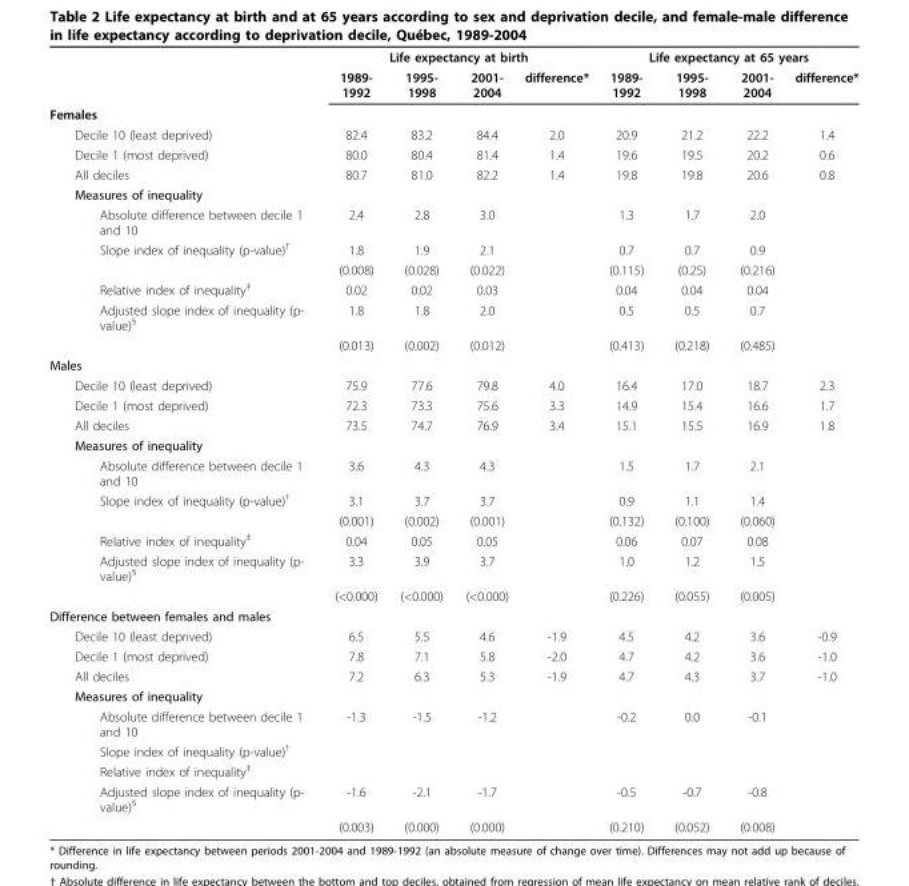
<table><thead><tr><td rowspan="2"></td><td colspan="4">Life expectancy at birth</td><td colspan="4">Life expectancy at 65 years</td></tr><tr><td>1989- 1992</td><td>1995- 1998</td><td>2001- 2004</td><td>difference*</td><td>1989- 1992</td><td>1995- 1998</td><td>2001- 2004</td><td>difference*</td></tr></thead><tbody><tr><td colspan="9">Females</td></tr><tr><td>Decile 10 (least deprived)</td><td>82.4</td><td>83.2</td><td>84.4</td><td>2.0</td><td>20.9</td><td>21.2</td><td>22.2</td><td>1.4</td></tr><tr><td>Decile 1 (most deprived)</td><td>80.0</td><td>80.4</td><td>81.4</td><td>1.4</td><td>19.6</td><td>19.5</td><td>20.2</td><td>0.6</td></tr><tr><td>All deciles</td><td>80.7</td><td>81.0</td><td>82.2</td><td>1.4</td><td>19.8</td><td>19.8</td><td>20.6</td><td>0.8</td></tr><tr><td colspan="9">Measures of inequality</td></tr><tr><td>Absolute difference between decile 1 and 10</td><td>2.4</td><td>2.8</td><td>3.0</td><td></td><td>1.3</td><td>1.7</td><td>2.0</td><td></td></tr><tr><td rowspan="2">Slope index of inequality (p-value)<sup>†</sup></td><td>1.8</td><td>1.9</td><td>2.1</td><td></td><td>0.7</td><td>0.7</td><td>0.9</td><td></td></tr><tr><td>(0.008)</td><td>(0.028)</td><td>(0.022)</td><td></td><td>(0.115)</td><td>(0.25)</td><td>(0.216)</td><td></td></tr><tr><td>Relative index of inequality<sup>‡</sup></td><td>0.02</td><td>0.02</td><td>0.03</td><td></td><td>0.04</td><td>0.04</td><td>0.04</td><td></td></tr><tr><td rowspan="2">Adjusted slope index of inequality (p- value)<sup>§</sup></td><td>1.8</td><td>1.8</td><td>2.0</td><td></td><td>0.5</td><td>0.5</td><td>0.7</td><td></td></tr><tr><td>(0.013)</td><td>(0.002)</td><td>(0.012)</td><td></td><td>(0.413)</td><td>(0.218)</td><td>(0.485)</td><td></td></tr><tr><td colspan="9">Males</td></tr><tr><td>Decile 10 (least deprived)</td><td>75.9</td><td>77.6</td><td>79.8</td><td>4.0</td><td>16.4</td><td>17.0</td><td>18.7</td><td>2.3</td></tr><tr><td>Decile 1 (most deprived)</td><td>72.3</td><td>73.3</td><td>75.6</td><td>3.3</td><td>14.9</td><td>15.4</td><td>16.6</td><td>1.7</td></tr><tr><td>All deciles</td><td>73.5</td><td>74.7</td><td>76.9</td><td>3.4</td><td>15.1</td><td>15.5</td><td>16.9</td><td>1.8</td></tr><tr><td colspan="9">Measures of inequality</td></tr><tr><td>Absolute difference between decile 1 and 10</td><td>3.6</td><td>4.3</td><td>4.3</td><td></td><td>1.5</td><td>1.7</td><td>2.1</td><td></td></tr><tr><td rowspan="2">Slope index of inequality (p-value)<sup>†</sup></td><td>3.1</td><td>3.7</td><td>3.7</td><td></td><td>0.9</td><td>1.1</td><td>1.4</td><td></td></tr><tr><td>(0.001)</td><td>(0.002)</td><td>(0.001)</td><td></td><td>(0.132)</td><td>(0.100)</td><td>(0.060)</td><td></td></tr><tr><td>Relative index of inequality<sup>‡</sup></td><td>0.04</td><td>0.05</td><td>0.05</td><td></td><td>0.06</td><td>0.07</td><td>0.08</td><td></td></tr><tr><td rowspan="2">Adjusted slope index of inequality (p- value)<sup>§</sup></td><td>3.3</td><td>3.9</td><td>3.7</td><td></td><td>1.0</td><td>1.2</td><td>1.5</td><td></td></tr><tr><td>(&lt;0.000)</td><td>(&lt;0.000)</td><td>(&lt;0.000)</td><td></td><td>(0.226)</td><td>(0.055)</td><td>(0.005)</td><td></td></tr><tr><td colspan="9">Difference between females and males</td></tr><tr><td>Decile 10 (least deprived)</td><td>6.5</td><td>5.5</td><td>4.6</td><td>-1.9</td><td>4.5</td><td>4.2</td><td>3.6</td><td>-0.9</td></tr><tr><td>Decile 1 (most deprived)</td><td>7.8</td><td>7.1</td><td>5.8</td><td>-2.0</td><td>4.7</td><td>4.2</td><td>3.6</td><td>-1.0</td></tr><tr><td>All deciles</td><td>7.2</td><td>6.3</td><td>5.3</td><td>-1.9</td><td>4.7</td><td>4.3</td><td>3.7</td><td>-1.0</td></tr><tr><td colspan="9">Measures of inequality</td></tr><tr><td>Absolute difference between decile 1 and 10</td><td>-1.3</td><td>-1.5</td><td>-1.2</td><td></td><td>-0.2</td><td>0.0</td><td>-0.1</td><td></td></tr><tr><td colspan="9">Slope index of inequality (p-value)<sup>†</sup></td></tr><tr><td colspan="9">Relative index of inequality<sup>‡</sup></td></tr><tr><td rowspan="2">Adjusted slope index of inequality (p- value)<sup>§</sup></td><td>-1.6</td><td>-2.1</td><td>-1.7</td><td></td><td>-0.5</td><td>-0.7</td><td>-0.8</td><td></td></tr><tr><td>(0.003)</td><td>(0.000)</td><td>(0.000)</td><td></td><td>(0.210)</td><td>(0.052)</td><td>(0.008)</td><td></td></tr></tbody></table>